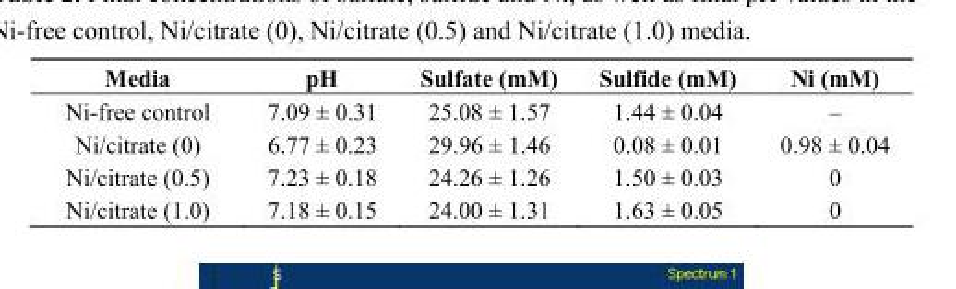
<table><thead><tr><td>Media</td><td>pH</td><td>Sulfate (mM)</td><td>Sulfide (mM)</td><td>Ni (mM)</td></tr></thead><tbody><tr><td>Ni-free control</td><td>7.09 ± 0.31</td><td>25.08 ± 1.57</td><td>1.44 ± 0.04</td><td>–</td></tr><tr><td>Ni/citrate (0)</td><td>6.77 ± 0.23</td><td>29.96 ± 1.46</td><td>0.08 ± 0.01</td><td>0.98 ± 0.04</td></tr><tr><td>Ni/citrate (0.5)</td><td>7.23 ± 0.18</td><td>24.26 ± 1.26</td><td>1.50 ± 0.03</td><td>0</td></tr><tr><td>Ni/citrate (1.0)</td><td>7.18 ± 0.15</td><td>24.00 ± 1.31</td><td>1.63 ± 0.05</td><td>0</td></tr></tbody></table>